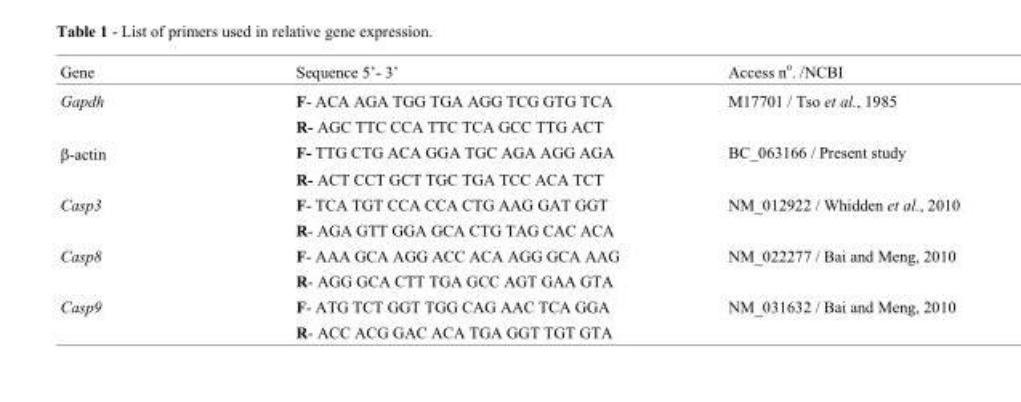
<table><thead><tr><td>Gene</td><td>Sequence 5’- 3’</td><td>Access n<sup>o</sup>. /NCBI</td></tr></thead><tbody><tr><td rowspan="2">Gapdh</td><td>F- ACA AGA TGG TGA AGG TCG GTG TCA</td><td>M17701 / Tso et al., 1985</td></tr><tr><td>R- AGC TTC CCA TTC TCA GCC TTG ACT</td><td></td></tr><tr><td rowspan="2">β-actin</td><td>F- TTG CTG ACA GGA TGC AGA AGG AGA</td><td>BC_063166 / Present study</td></tr><tr><td>R- ACT CCT GCT TGC TGA TCC ACA TCT</td><td></td></tr><tr><td rowspan="2">Casp3</td><td>F- TCA TGT CCA CCA CTG AAG GAT GGT</td><td>NM_012922 / Whidden et al., 2010</td></tr><tr><td>R- AGA GTT GGA GCA CTG TAG CAC ACA</td><td></td></tr><tr><td rowspan="2">Casp8</td><td>F- AAA GCA AGG ACC ACA AGG GCA AAG</td><td>NM_022277 / Bai and Meng, 2010</td></tr><tr><td>R- AGG GCA CTT TGA GCC AGT GAA GTA</td><td></td></tr><tr><td rowspan="2">Casp9</td><td>F- ATG TCT GGT TGG CAG AAC TCA GGA</td><td>NM_031632 / Bai and Meng, 2010</td></tr><tr><td>R- ACC ACG GAC ACA TGA GGT TGT GTA</td><td></td></tr></tbody></table>